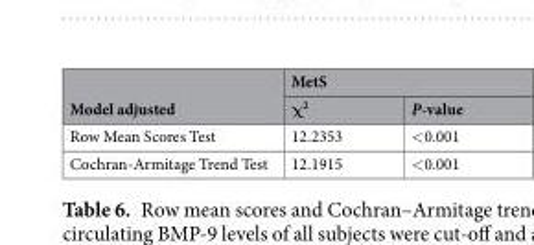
<table><thead><tr><td rowspan="2">Model adjusted</td><td colspan="2">MetS</td></tr><tr><td>χ<sup>2</sup></td><td>P-value</td></tr></thead><tbody><tr><td>Row Mean Scores Test</td><td>12.2353</td><td>&lt;0.001</td></tr><tr><td>Cochran-Armitage Trend Test</td><td>12.1915</td><td>&lt;0.001</td></tr></tbody></table>